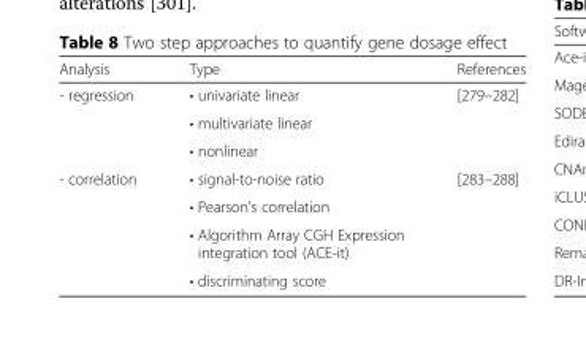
<table><thead><tr><td>Analysis</td><td>Type</td><td>References</td></tr></thead><tbody><tr><td rowspan="3">- regression</td><td>• univariate linear</td><td rowspan="3">[279–282]</td></tr><tr><td>• multivariate linear</td></tr><tr><td>• nonlinear</td></tr><tr><td rowspan="4">- correlation</td><td>• signal-to-noise ratio</td><td rowspan="4">[283–288]</td></tr><tr><td>• Pearson&#x27;s correlation</td></tr><tr><td>• Algorithm Array CGH Expression integration tool (ACE-it)</td></tr><tr><td>• discriminating score</td></tr></tbody></table>